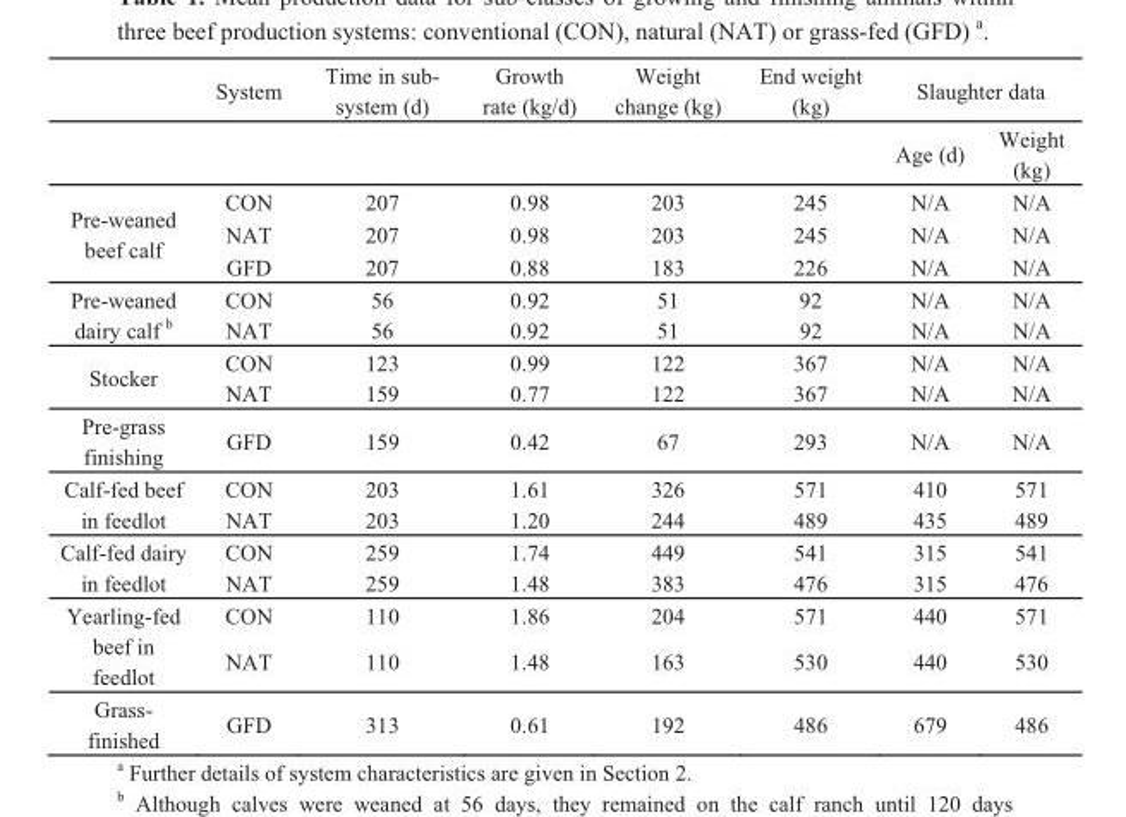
<table><thead><tr><td rowspan="2"></td><td rowspan="2">System</td><td rowspan="2">Time in sub- system (d)</td><td rowspan="2">Growth rate (kg/d)</td><td rowspan="2">Weight change (kg)</td><td rowspan="2">End weight (kg)</td><td colspan="2">Slaughter data</td></tr><tr><td>Age (d)</td><td>Weight (kg)</td></tr></thead><tbody><tr><td rowspan="3">Pre-weaned beef calf</td><td>CON</td><td>207</td><td>0.98</td><td>203</td><td>245</td><td>N/A</td><td>N/A</td></tr><tr><td>NAT</td><td>207</td><td>0.98</td><td>203</td><td>245</td><td>N/A</td><td>N/A</td></tr><tr><td>GFD</td><td>207</td><td>0.88</td><td>183</td><td>226</td><td>N/A</td><td>N/A</td></tr><tr><td rowspan="2">Pre-weaned dairy calf <sup>b</sup></td><td>CON</td><td>56</td><td>0.92</td><td>51</td><td>92</td><td>N/A</td><td>N/A</td></tr><tr><td>NAT</td><td>56</td><td>0.92</td><td>51</td><td>92</td><td>N/A</td><td>N/A</td></tr><tr><td rowspan="2">Stocker</td><td>CON</td><td>123</td><td>0.99</td><td>122</td><td>367</td><td>N/A</td><td>N/A</td></tr><tr><td>NAT</td><td>159</td><td>0.77</td><td>122</td><td>367</td><td>N/A</td><td>N/A</td></tr><tr><td>Pre-grass finishing</td><td>GFD</td><td>159</td><td>0.42</td><td>67</td><td>293</td><td>N/A</td><td>N/A</td></tr><tr><td rowspan="2">Calf-fed beef in feedlot</td><td>CON</td><td>203</td><td>1.61</td><td>326</td><td>571</td><td>410</td><td>571</td></tr><tr><td>NAT</td><td>203</td><td>1.20</td><td>244</td><td>489</td><td>435</td><td>489</td></tr><tr><td rowspan="2">Calf-fed dairy in feedlot</td><td>CON</td><td>259</td><td>1.74</td><td>449</td><td>541</td><td>315</td><td>541</td></tr><tr><td>NAT</td><td>259</td><td>1.48</td><td>383</td><td>476</td><td>315</td><td>476</td></tr><tr><td rowspan="2">Yearling-fed beef in feedlot</td><td>CON</td><td>110</td><td>1.86</td><td>204</td><td>571</td><td>440</td><td>571</td></tr><tr><td>NAT</td><td>110</td><td>1.48</td><td>163</td><td>530</td><td>440</td><td>530</td></tr><tr><td>Grass- finished</td><td>GFD</td><td>313</td><td>0.61</td><td>192</td><td>486</td><td>679</td><td>486</td></tr></tbody></table>